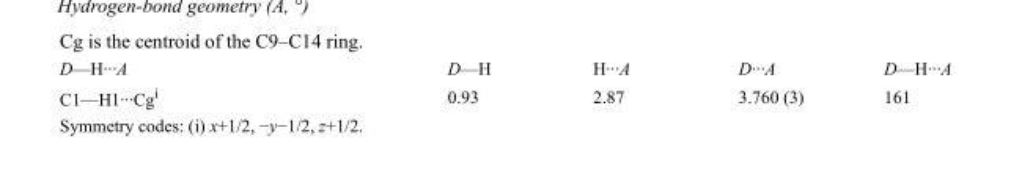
<table><tbody><tr><td>D—H···A</td><td>D—H</td><td>H···A</td><td>D···A</td><td>D—H···A</td></tr><tr><td>C1—H1···Cg<sup>i</sup></td><td>0.93</td><td>2.87</td><td>3.760 (3)</td><td>161</td></tr></tbody></table>